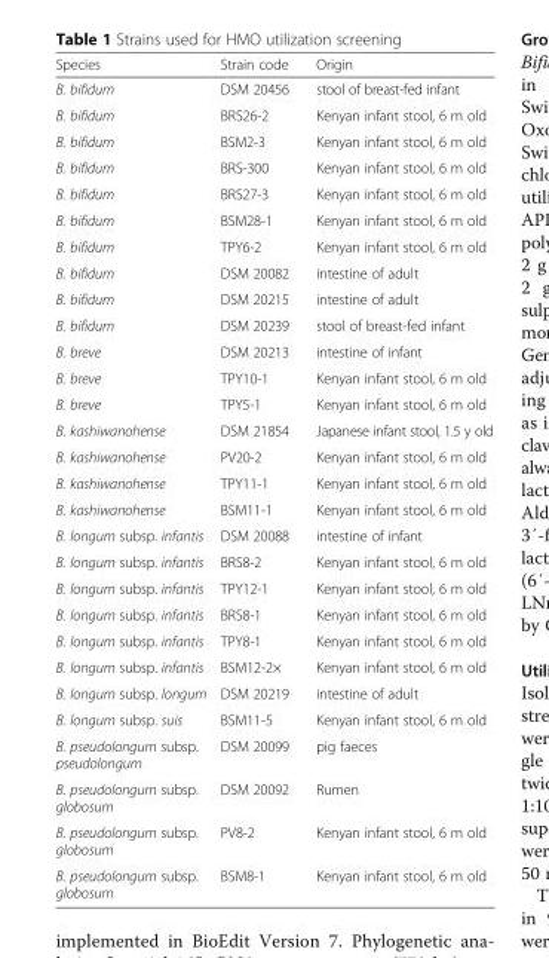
<table><thead><tr><td>Species</td><td>Strain code</td><td>Origin</td></tr></thead><tbody><tr><td>B. bifidum</td><td>DSM 20456</td><td>stool of breast-fed infant</td></tr><tr><td>B. bifidum</td><td>BRS26-2</td><td>Kenyan infant stool, 6 m old</td></tr><tr><td>B. bifidum</td><td>BSM2-3</td><td>Kenyan infant stool, 6 m old</td></tr><tr><td>B. bifidum</td><td>BRS-300</td><td>Kenyan infant stool, 6 m old</td></tr><tr><td>B. bifidum</td><td>BRS27-3</td><td>Kenyan infant stool, 6 m old</td></tr><tr><td>B. bifidum</td><td>BSM28-1</td><td>Kenyan infant stool, 6 m old</td></tr><tr><td>B. bifidum</td><td>TPY6-2</td><td>Kenyan infant stool, 6 m old</td></tr><tr><td>B. bifidum</td><td>DSM 20082</td><td>intestine of adult</td></tr><tr><td>B. bifidum</td><td>DSM 20215</td><td>intestine of adult</td></tr><tr><td>B. bifidum</td><td>DSM 20239</td><td>stool of breast-fed infant</td></tr><tr><td>B. breve</td><td>DSM 20213</td><td>intestine of infant</td></tr><tr><td>B. breve</td><td>TPY10-1</td><td>Kenyan infant stool, 6 m old</td></tr><tr><td>B. breve</td><td>TPY5-1</td><td>Kenyan infant stool, 6 m old</td></tr><tr><td>B. kashiwanohense</td><td>DSM 21854</td><td>Japanese infant stool, 1.5 y old</td></tr><tr><td>B. kashiwanohense</td><td>PV20-2</td><td>Kenyan infant stool, 6 m old</td></tr><tr><td>B. kashiwanohense</td><td>TPY11-1</td><td>Kenyan infant stool, 6 m old</td></tr><tr><td>B. kashiwanohense</td><td>BSM11-1</td><td>Kenyan infant stool, 6 m old</td></tr><tr><td>B. longum subsp. infantis</td><td>DSM 20088</td><td>intestine of infant</td></tr><tr><td>B. longum subsp. infantis</td><td>BRS8-2</td><td>Kenyan infant stool, 6 m old</td></tr><tr><td>B. longum subsp. infantis</td><td>TPY12-1</td><td>Kenyan infant stool, 6 m old</td></tr><tr><td>B. longum subsp. infantis</td><td>BRS8-1</td><td>Kenyan infant stool, 6 m old</td></tr><tr><td>B. longum subsp. infantis</td><td>TPY8-1</td><td>Kenyan infant stool, 6 m old</td></tr><tr><td>B. longum subsp. infantis</td><td>BSM12-2×</td><td>Kenyan infant stool, 6 m old</td></tr><tr><td>B. longum subsp. longum</td><td>DSM 20219</td><td>intestine of adult</td></tr><tr><td>B. longum subsp. suis</td><td>BSM11-5</td><td>Kenyan infant stool, 6 m old</td></tr><tr><td>B. pseudolongum subsp. pseudolongum</td><td>DSM 20099</td><td>pig faeces</td></tr><tr><td>B. pseudolongum subsp. globosum</td><td>DSM 20092</td><td>Rumen</td></tr><tr><td>B. pseudolongum subsp. globosum</td><td>PV8-2</td><td>Kenyan infant stool, 6 m old</td></tr><tr><td>B. pseudolongum subsp. globosum</td><td>BSM8-1</td><td>Kenyan infant stool, 6 m old</td></tr></tbody></table>